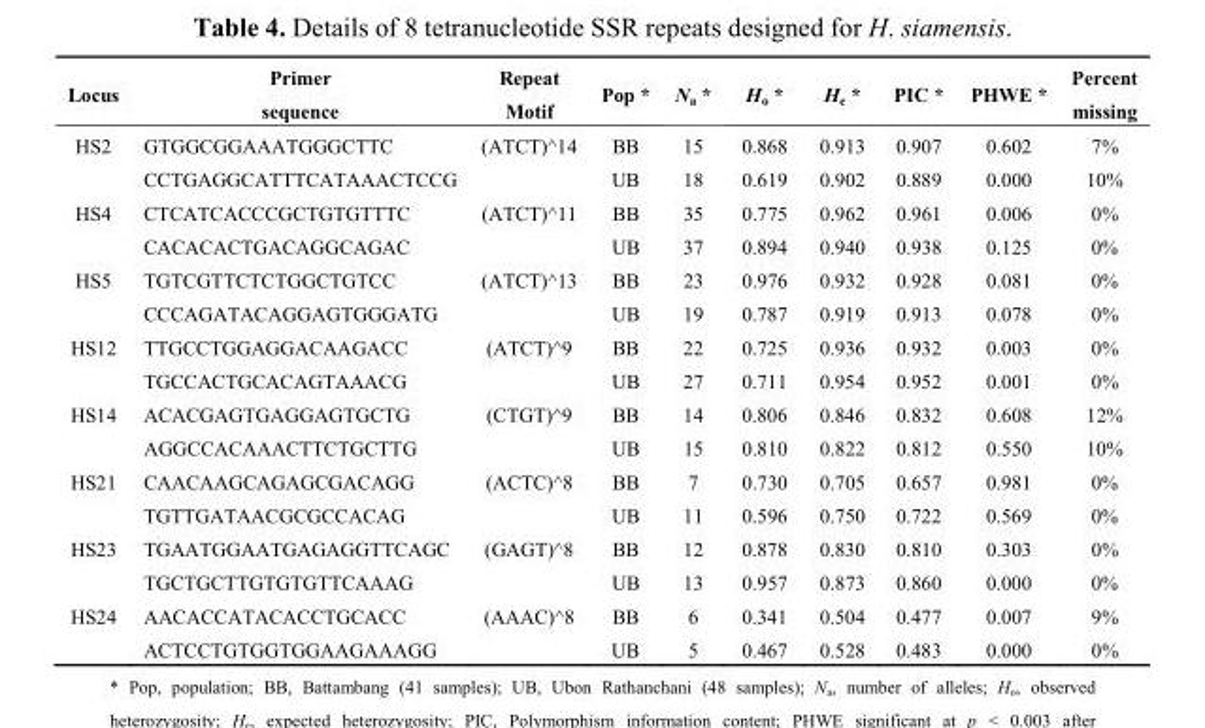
<table><thead><tr><td>Locus</td><td>Primer sequence</td><td>Repeat Motif</td><td>Pop *</td><td>N<sub>a</sub> *</td><td>H<sub>o</sub> *</td><td>H<sub>e</sub> *</td><td>PIC *</td><td>PHWE *</td><td>Percent missing</td></tr></thead><tbody><tr><td rowspan="2">HS2</td><td>GTGGCGGAAATGGGCTTC</td><td>(ATCT)^14</td><td>BB</td><td>15</td><td>0.868</td><td>0.913</td><td>0.907</td><td>0.602</td><td>7%</td></tr><tr><td>CCTGAGGCATTTCATAAACTCCG</td><td></td><td>UB</td><td>18</td><td>0.619</td><td>0.902</td><td>0.889</td><td>0.000</td><td>10%</td></tr><tr><td rowspan="2">HS4</td><td>CTCATCACCCGCTGTGTTTC</td><td>(ATCT)^11</td><td>BB</td><td>35</td><td>0.775</td><td>0.962</td><td>0.961</td><td>0.006</td><td>0%</td></tr><tr><td>CACACACTGACAGGCAGAC</td><td></td><td>UB</td><td>37</td><td>0.894</td><td>0.940</td><td>0.938</td><td>0.125</td><td>0%</td></tr><tr><td rowspan="2">HS5</td><td>TGTCGTTCTCTGGCTGTCC</td><td>(ATCT)^13</td><td>BB</td><td>23</td><td>0.976</td><td>0.932</td><td>0.928</td><td>0.081</td><td>0%</td></tr><tr><td>CCCAGATACAGGAGTGGGATG</td><td></td><td>UB</td><td>19</td><td>0.787</td><td>0.919</td><td>0.913</td><td>0.078</td><td>0%</td></tr><tr><td rowspan="2">HS12</td><td>TTGCCTGGAGGACAAGACC</td><td>(ATCT)^9</td><td>BB</td><td>22</td><td>0.725</td><td>0.936</td><td>0.932</td><td>0.003</td><td>0%</td></tr><tr><td>TGCCACTGCACAGTAAACG</td><td></td><td>UB</td><td>27</td><td>0.711</td><td>0.954</td><td>0.952</td><td>0.001</td><td>0%</td></tr><tr><td rowspan="2">HS14</td><td>ACACGAGTGAGGAGTGCTG</td><td>(CTGT)^9</td><td>BB</td><td>14</td><td>0.806</td><td>0.846</td><td>0.832</td><td>0.608</td><td>12%</td></tr><tr><td>AGGCCACAAACTTCTGCTTG</td><td></td><td>UB</td><td>15</td><td>0.810</td><td>0.822</td><td>0.812</td><td>0.550</td><td>10%</td></tr><tr><td rowspan="2">HS21</td><td>CAACAAGCAGAGCGACAGG</td><td>(ACTC)^8</td><td>BB</td><td>7</td><td>0.730</td><td>0.705</td><td>0.657</td><td>0.981</td><td>0%</td></tr><tr><td>TGTTGATAACGCGCCACAG</td><td></td><td>UB</td><td>11</td><td>0.596</td><td>0.750</td><td>0.722</td><td>0.569</td><td>0%</td></tr><tr><td rowspan="2">HS23</td><td>TGAATGGAATGAGAGGTTCAGC</td><td>(GAGT)^8</td><td>BB</td><td>12</td><td>0.878</td><td>0.830</td><td>0.810</td><td>0.303</td><td>0%</td></tr><tr><td>TGCTGCTTGTGTGTTCAAAG</td><td></td><td>UB</td><td>13</td><td>0.957</td><td>0.873</td><td>0.860</td><td>0.000</td><td>0%</td></tr><tr><td rowspan="2">HS24</td><td>AACACCATACACCTGCACC</td><td>(AAAC)^8</td><td>BB</td><td>6</td><td>0.341</td><td>0.504</td><td>0.477</td><td>0.007</td><td>9%</td></tr><tr><td>ACTCCTGTGGTGGAAGAAAGG</td><td></td><td>UB</td><td>5</td><td>0.467</td><td>0.528</td><td>0.483</td><td>0.000</td><td>0%</td></tr></tbody></table>